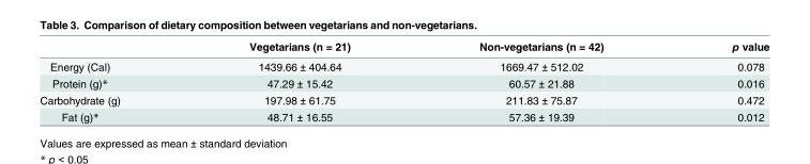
<table><thead><tr><td></td><td>Vegetarians (n = 21)</td><td>Non-vegetarians (n = 42)</td><td>p value</td></tr></thead><tbody><tr><td>Energy (Cal)</td><td>1439.66 ± 404.64</td><td>1669.47 ± 512.02</td><td>0.078</td></tr><tr><td>Protein (g)*</td><td>47.29 ± 15.42</td><td>60.57 ± 21.88</td><td>0.016</td></tr><tr><td>Carbohydrate (g)</td><td>197.98 ± 61.75</td><td>211.83 ± 75.87</td><td>0.472</td></tr><tr><td>Fat (g)*</td><td>48.71 ± 16.55</td><td>57.36 ± 19.39</td><td>0.012</td></tr></tbody></table>